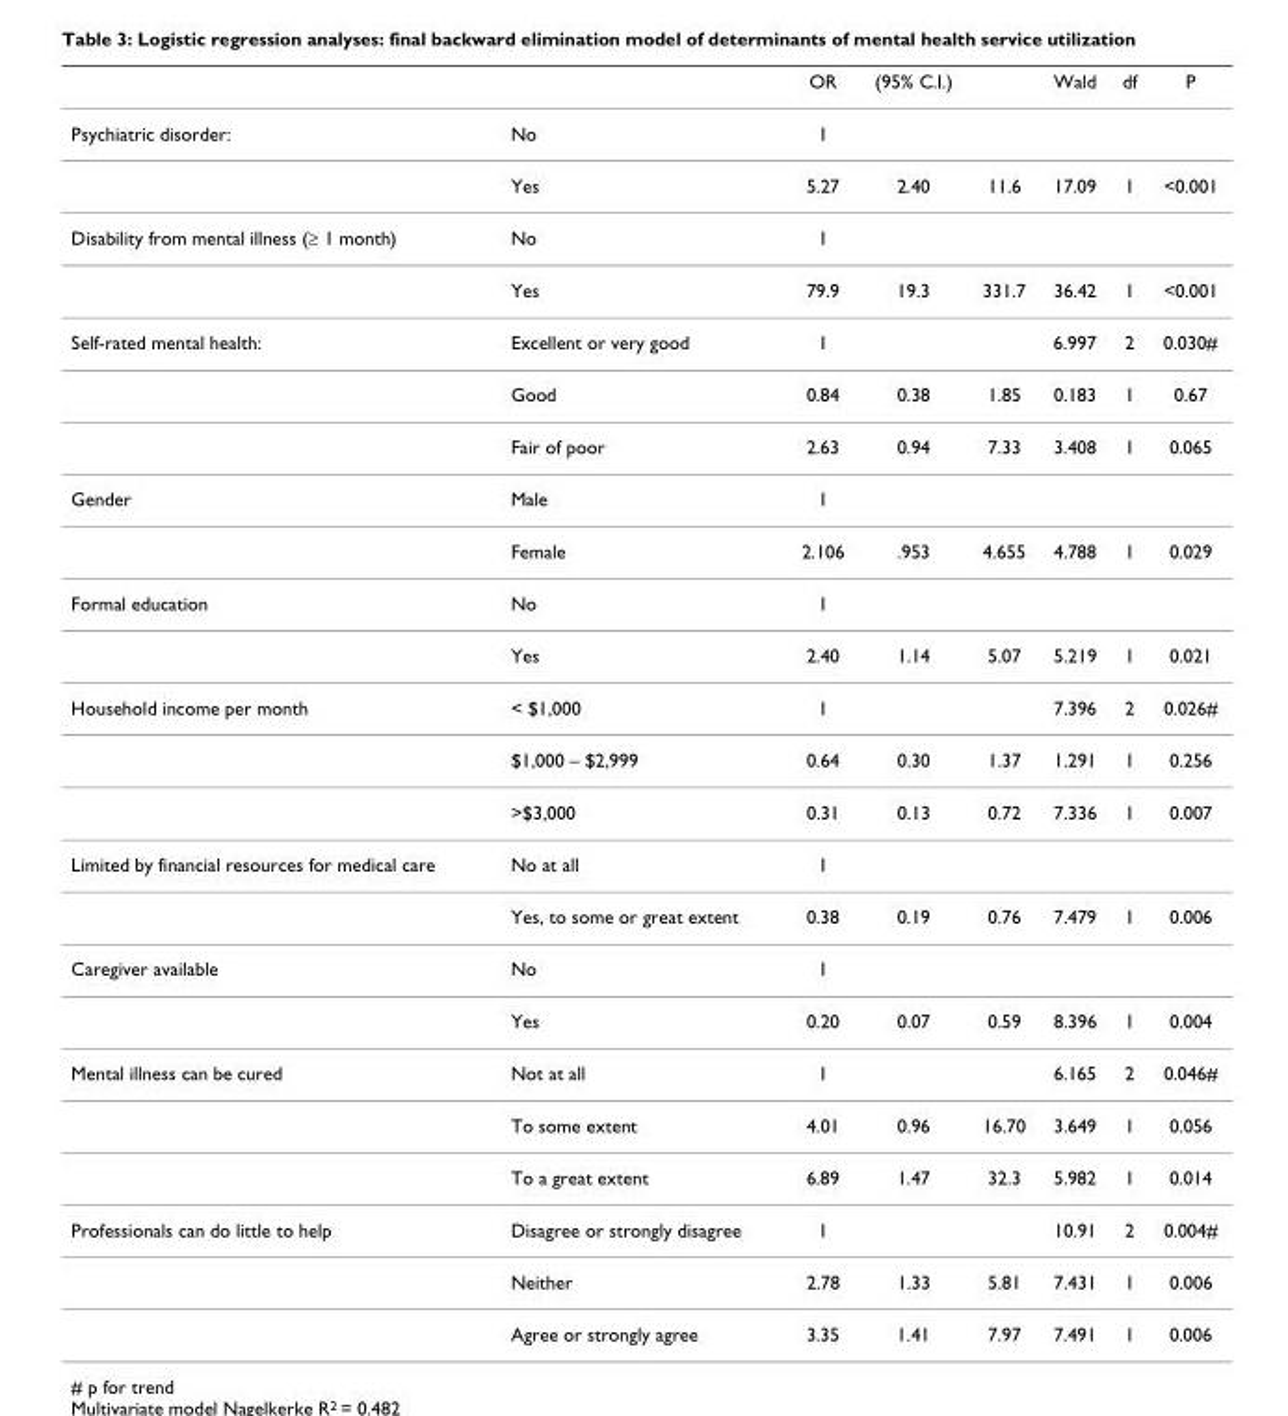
<table><thead><tr><td></td><td></td><td>OR</td><td>(95% C.I.)</td><td></td><td>Wald</td><td>df</td><td>P</td></tr></thead><tbody><tr><td rowspan="2">Psychiatric disorder:</td><td>No</td><td>1</td><td></td><td></td><td></td><td></td><td></td></tr><tr><td>Yes</td><td>5.27</td><td>2.40</td><td>11.6</td><td>17.09</td><td>1</td><td>&lt;0.001</td></tr><tr><td rowspan="2">Disability from mental illness (≥ 1 month)</td><td>No</td><td>1</td><td></td><td></td><td></td><td></td><td></td></tr><tr><td>Yes</td><td>79.9</td><td>19.3</td><td>331.7</td><td>36.42</td><td>1</td><td>&lt;0.001</td></tr><tr><td rowspan="3">Self-rated mental health:</td><td>Excellent or very good</td><td>1</td><td></td><td></td><td>6.997</td><td>2</td><td>0.030#</td></tr><tr><td>Good</td><td>0.84</td><td>0.38</td><td>1.85</td><td>0.183</td><td>1</td><td>0.67</td></tr><tr><td>Fair of poor</td><td>2.63</td><td>0.94</td><td>7.33</td><td>3.408</td><td>1</td><td>0.065</td></tr><tr><td rowspan="2">Gender</td><td>Male</td><td>1</td><td></td><td></td><td></td><td></td><td></td></tr><tr><td>Female</td><td>2.106</td><td>.953</td><td>4.655</td><td>4.788</td><td>1</td><td>0.029</td></tr><tr><td rowspan="2">Formal education</td><td>No</td><td>1</td><td></td><td></td><td></td><td></td><td></td></tr><tr><td>Yes</td><td>2.40</td><td>1.14</td><td>5.07</td><td>5.219</td><td>1</td><td>0.021</td></tr><tr><td rowspan="3">Household income per month</td><td>&lt; $1,000</td><td>1</td><td></td><td></td><td>7.396</td><td>2</td><td>0.026#</td></tr><tr><td>$1,000 – $2,999</td><td>0.64</td><td>0.30</td><td>1.37</td><td>1.291</td><td>1</td><td>0.256</td></tr><tr><td>&gt;$3,000</td><td>0.31</td><td>0.13</td><td>0.72</td><td>7.336</td><td>1</td><td>0.007</td></tr><tr><td rowspan="2">Limited by financial resources for medical care</td><td>No at all</td><td>1</td><td></td><td></td><td></td><td></td><td></td></tr><tr><td>Yes, to some or great extent</td><td>0.38</td><td>0.19</td><td>0.76</td><td>7.479</td><td>1</td><td>0.006</td></tr><tr><td rowspan="2">Caregiver available</td><td>No</td><td>1</td><td></td><td></td><td></td><td></td><td></td></tr><tr><td>Yes</td><td>0.20</td><td>0.07</td><td>0.59</td><td>8.396</td><td>1</td><td>0.004</td></tr><tr><td rowspan="3">Mental illness can be cured</td><td>Not at all</td><td>1</td><td></td><td></td><td>6.165</td><td>2</td><td>0.046#</td></tr><tr><td>To some extent</td><td>4.01</td><td>0.96</td><td>16.70</td><td>3.649</td><td>1</td><td>0.056</td></tr><tr><td>To a great extent</td><td>6.89</td><td>1.47</td><td>32.3</td><td>5.982</td><td>1</td><td>0.014</td></tr><tr><td rowspan="3">Professionals can do little to help</td><td>Disagree or strongly disagree</td><td>1</td><td></td><td></td><td>10.91</td><td>2</td><td>0.004#</td></tr><tr><td>Neither</td><td>2.78</td><td>1.33</td><td>5.81</td><td>7.431</td><td>1</td><td>0.006</td></tr><tr><td>Agree or strongly agree</td><td>3.35</td><td>1.41</td><td>7.97</td><td>7.491</td><td>1</td><td>0.006</td></tr></tbody></table>